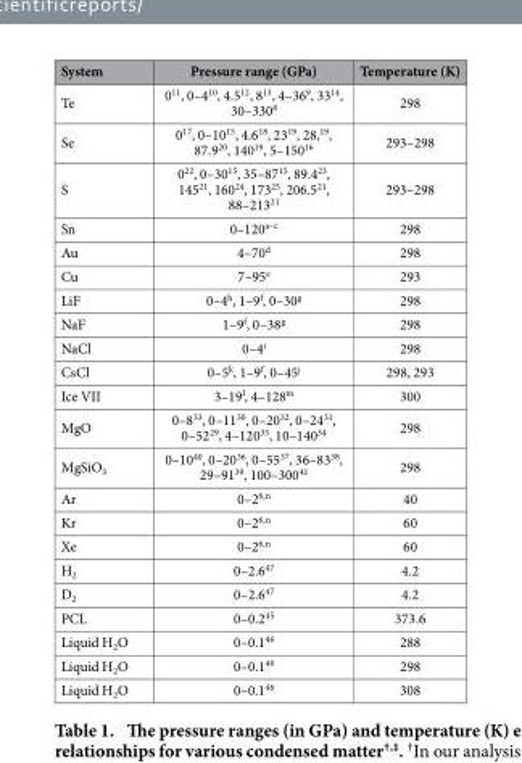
<table><thead><tr><td>System</td><td>Pressure range (GPa)</td><td>Temperature (K)</td></tr></thead><tbody><tr><td>Te</td><td>0<sup>11</sup>, 0–4<sup>10</sup>, 4.5<sup>12</sup>, 8<sup>13</sup>, 4–36<sup>9</sup>, 33<sup>14</sup>, 30–330<sup>8</sup></td><td>298</td></tr><tr><td>Se</td><td>0<sup>17</sup>, 0–10<sup>15</sup>, 4.6<sup>18</sup>, 23<sup>19</sup>, 28,<sup>19</sup>, 87.9<sup>20</sup>, 140<sup>19</sup>, 5–150<sup>16</sup></td><td>293–298</td></tr><tr><td>S</td><td>0<sup>22</sup>, 0–30<sup>15</sup>, 35–87<sup>15</sup>, 89.4<sup>23</sup>, 145<sup>21</sup>, 160<sup>24</sup>, 173<sup>25</sup>, 206.5<sup>21</sup>, 88–213<sup>21</sup></td><td>293–298</td></tr><tr><td>Sn</td><td>0–120<sup>a–c</sup></td><td>298</td></tr><tr><td>Au</td><td>4–70<sup>d</sup></td><td>298</td></tr><tr><td>Cu</td><td>7–95<sup>e</sup></td><td>293</td></tr><tr><td>LiF</td><td>0–4<sup>h</sup>, 1–9<sup>f</sup>, 0–30<sup>g</sup></td><td>298</td></tr><tr><td>NaF</td><td>1–9<sup>f</sup>, 0–38<sup>g</sup></td><td>298</td></tr><tr><td>NaCl</td><td>0–4<sup>i</sup></td><td>298</td></tr><tr><td>CsCl</td><td>0–5<sup>k</sup>, 1–9<sup>f</sup>, 0–45<sup>j</sup></td><td>298, 293</td></tr><tr><td>Ice VII</td><td>3–19l, 4–128m</td><td>300</td></tr><tr><td>MgO</td><td>0–8<sup>33</sup>, 0–11<sup>30</sup>, 0–20<sup>32</sup>, 0–24<sup>31</sup>, 0–52<sup>29</sup>, 4–120<sup>35</sup>, 10–140<sup>34</sup></td><td>298</td></tr><tr><td>MgSiO<sub>3</sub></td><td>0–10<sup>40</sup>, 0–20<sup>36</sup>, 0–55<sup>37</sup>, 36–83<sup>38</sup>, 29–91<sup>39</sup>, 100–300<sup>41</sup></td><td>298</td></tr><tr><td>Ar</td><td>0–2<sup>6,n</sup></td><td>40</td></tr><tr><td>Kr</td><td>0–2<sup>6,n</sup></td><td>60</td></tr><tr><td>Xe</td><td>0–2<sup>6,n</sup></td><td>60</td></tr><tr><td>H<sub>2</sub></td><td>0–2.6<sup>47</sup></td><td>4.2</td></tr><tr><td>D<sub>2</sub></td><td>0–2.6<sup>47</sup></td><td>4.2</td></tr><tr><td>PCL</td><td>0–0.2<sup>45</sup></td><td>373.6</td></tr><tr><td>Liquid H<sub>2</sub>O</td><td>0–0.1<sup>46</sup></td><td>288</td></tr><tr><td>Liquid H<sub>2</sub>O</td><td>0–0.1<sup>46</sup></td><td>298</td></tr><tr><td>Liquid H<sub>2</sub>O</td><td>0–0.1<sup>46</sup></td><td>308</td></tr></tbody></table>